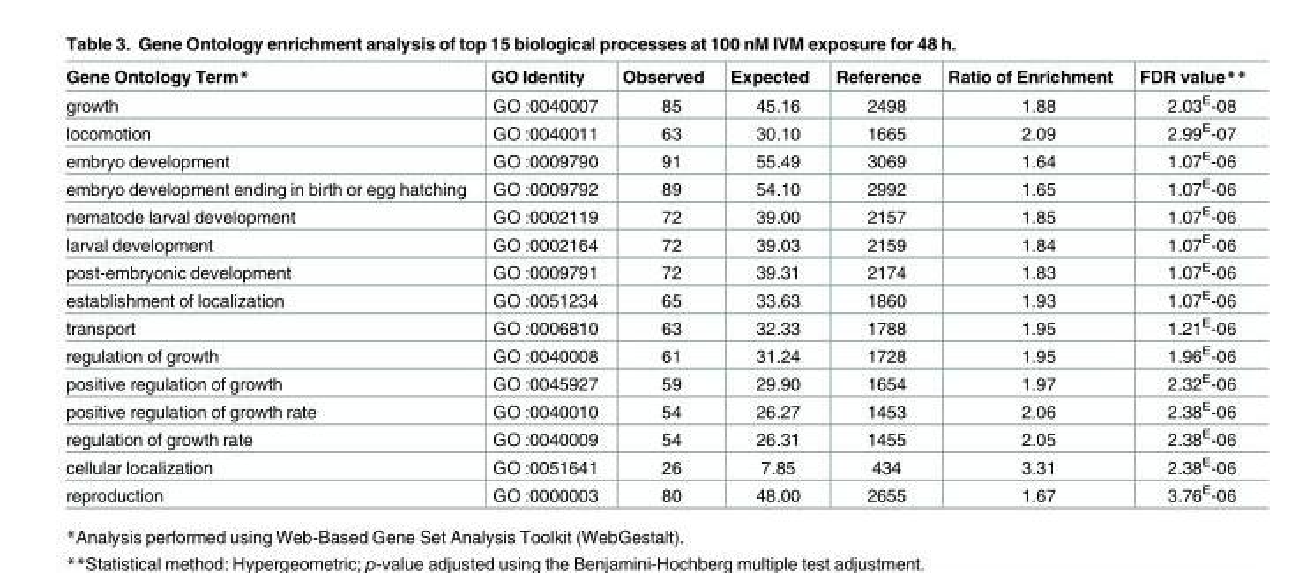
<table><thead><tr><td>Gene Ontology Term*</td><td>GO Identity</td><td>Observed</td><td>Expected</td><td>Reference</td><td>Ratio of Enrichment</td><td>FDR value**</td></tr></thead><tbody><tr><td>growth</td><td>GO :0040007</td><td>85</td><td>45.16</td><td>2498</td><td>1.88</td><td>2.03<sup>E</sup>-08</td></tr><tr><td>locomotion</td><td>GO :0040011</td><td>63</td><td>30.10</td><td>1665</td><td>2.09</td><td>2.99<sup>E</sup>-07</td></tr><tr><td>embryo development</td><td>GO :0009790</td><td>91</td><td>55.49</td><td>3069</td><td>1.64</td><td>1.07<sup>E</sup>-06</td></tr><tr><td>embryo development ending in birth or egg hatching</td><td>GO :0009792</td><td>89</td><td>54.10</td><td>2992</td><td>1.65</td><td>1.07<sup>E</sup>-06</td></tr><tr><td>nematode larval development</td><td>GO :0002119</td><td>72</td><td>39.00</td><td>2157</td><td>1.85</td><td>1.07<sup>E</sup>-06</td></tr><tr><td>larval development</td><td>GO :0002164</td><td>72</td><td>39.03</td><td>2159</td><td>1.84</td><td>1.07<sup>E</sup>-06</td></tr><tr><td>post-embryonic development</td><td>GO :0009791</td><td>72</td><td>39.31</td><td>2174</td><td>1.83</td><td>1.07<sup>E</sup>-06</td></tr><tr><td>establishment of localization</td><td>GO :0051234</td><td>65</td><td>33.63</td><td>1860</td><td>1.93</td><td>1.07<sup>E</sup>-06</td></tr><tr><td>transport</td><td>GO :0006810</td><td>63</td><td>32.33</td><td>1788</td><td>1.95</td><td>1.21<sup>E</sup>-06</td></tr><tr><td>regulation of growth</td><td>GO :0040008</td><td>61</td><td>31.24</td><td>1728</td><td>1.95</td><td>1.96<sup>E</sup>-06</td></tr><tr><td>positive regulation of growth</td><td>GO :0045927</td><td>59</td><td>29.90</td><td>1654</td><td>1.97</td><td>2.32<sup>E</sup>-06</td></tr><tr><td>positive regulation of growth rate</td><td>GO :0040010</td><td>54</td><td>26.27</td><td>1453</td><td>2.06</td><td>2.38<sup>E</sup>-06</td></tr><tr><td>regulation of growth rate</td><td>GO :0040009</td><td>54</td><td>26.31</td><td>1455</td><td>2.05</td><td>2.38<sup>E</sup>-06</td></tr><tr><td>cellular localization</td><td>GO :0051641</td><td>26</td><td>7.85</td><td>434</td><td>3.31</td><td>2.38<sup>E</sup>-06</td></tr><tr><td>reproduction</td><td>GO :0000003</td><td>80</td><td>48.00</td><td>2655</td><td>1.67</td><td>3.76<sup>E</sup>-06</td></tr></tbody></table>